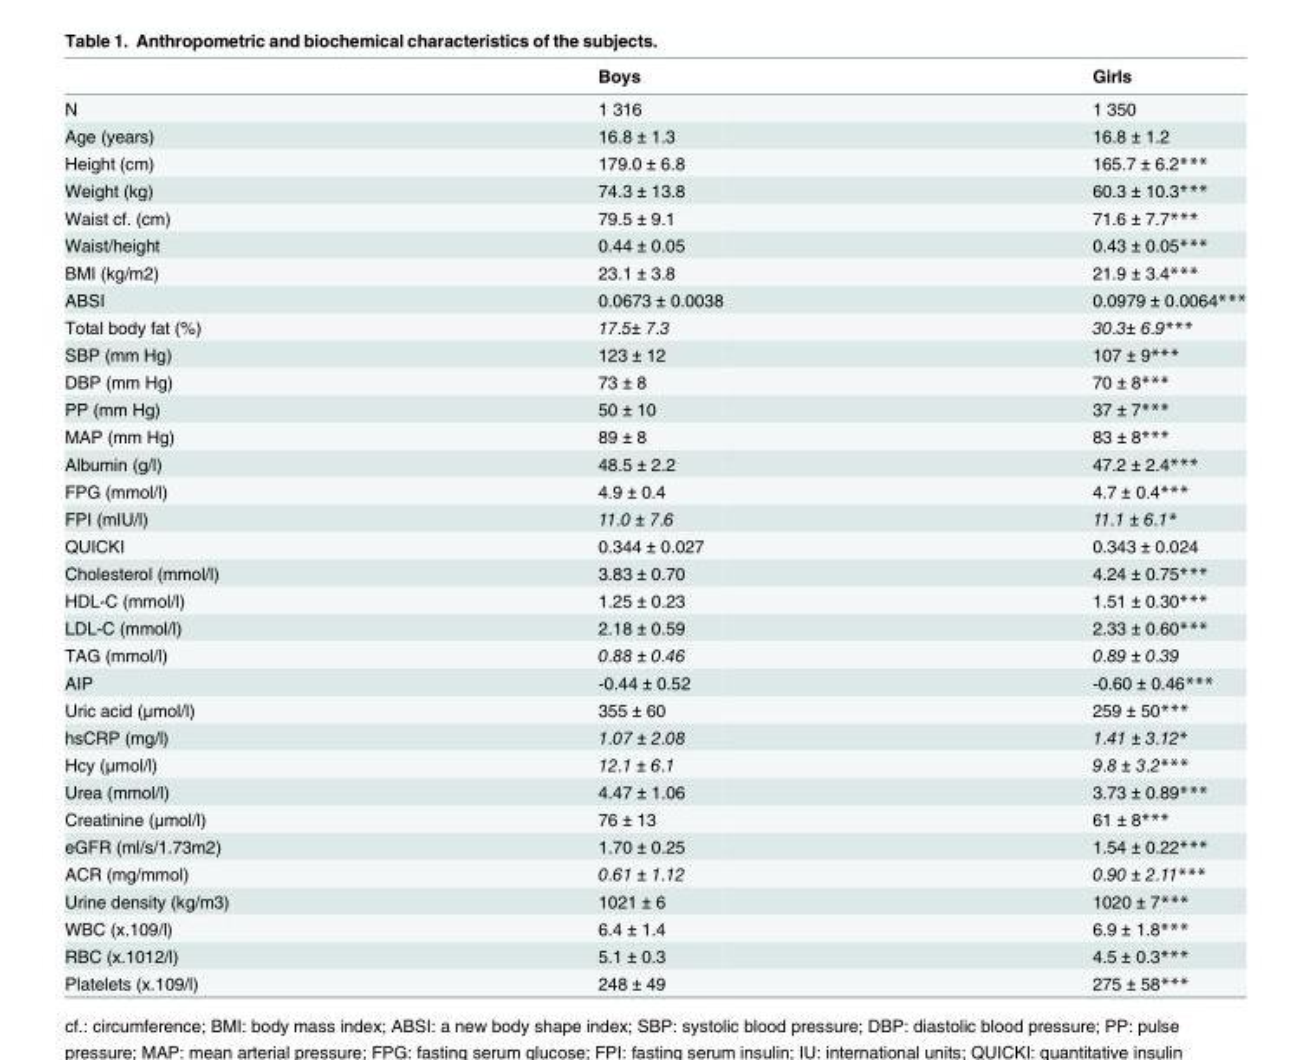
<table><thead><tr><td></td><td>Boys</td><td>Girls</td></tr></thead><tbody><tr><td>N</td><td>1 316</td><td>1 350</td></tr><tr><td>Age (years)</td><td>16.8 ± 1.3</td><td>16.8 ± 1.2</td></tr><tr><td>Height (cm)</td><td>179.0 ± 6.8</td><td>165.7 ± 6.2***</td></tr><tr><td>Weight (kg)</td><td>74.3 ± 13.8</td><td>60.3 ± 10.3***</td></tr><tr><td>Waist cf. (cm)</td><td>79.5 ± 9.1</td><td>71.6 ± 7.7***</td></tr><tr><td>Waist/height</td><td>0.44 ± 0.05</td><td>0.43 ± 0.05***</td></tr><tr><td>BMI (kg/m2)</td><td>23.1 ± 3.8</td><td>21.9 ± 3.4***</td></tr><tr><td>ABSI</td><td>0.0673 ± 0.0038</td><td>0.0979 ± 0.0064***</td></tr><tr><td>Total body fat (%)</td><td>17.5± 7.3</td><td>30.3± 6.9***</td></tr><tr><td>SBP (mm Hg)</td><td>123 ± 12</td><td>107 ± 9***</td></tr><tr><td>DBP (mm Hg)</td><td>73 ± 8</td><td>70 ± 8***</td></tr><tr><td>PP (mm Hg)</td><td>50 ± 10</td><td>37 ± 7***</td></tr><tr><td>MAP (mm Hg)</td><td>89 ± 8</td><td>83 ± 8***</td></tr><tr><td>Albumin (g/l)</td><td>48.5 ± 2.2</td><td>47.2 ± 2.4***</td></tr><tr><td>FPG (mmol/l)</td><td>4.9 ± 0.4</td><td>4.7 ± 0.4***</td></tr><tr><td>FPI (mIU/l)</td><td>11.0 ± 7.6</td><td>11.1 ± 6.1*</td></tr><tr><td>QUICKI</td><td>0.344 ± 0.027</td><td>0.343 ± 0.024</td></tr><tr><td>Cholesterol (mmol/l)</td><td>3.83 ± 0.70</td><td>4.24 ± 0.75***</td></tr><tr><td>HDL-C (mmol/l)</td><td>1.25 ± 0.23</td><td>1.51 ± 0.30***</td></tr><tr><td>LDL-C (mmol/l)</td><td>2.18 ± 0.59</td><td>2.33 ± 0.60***</td></tr><tr><td>TAG (mmol/l)</td><td>0.88 ± 0.46</td><td>0.89 ± 0.39</td></tr><tr><td>AIP</td><td>-0.44 ± 0.52</td><td>-0.60 ± 0.46***</td></tr><tr><td>Uric acid (μmol/l)</td><td>355 ± 60</td><td>259 ± 50***</td></tr><tr><td>hsCRP (mg/l)</td><td>1.07 ± 2.08</td><td>1.41 ± 3.12*</td></tr><tr><td>Hcy (μmol/l)</td><td>12.1 ± 6.1</td><td>9.8 ± 3.2***</td></tr><tr><td>Urea (mmol/l)</td><td>4.47 ± 1.06</td><td>3.73 ± 0.89***</td></tr><tr><td>Creatinine (μmol/l)</td><td>76 ± 13</td><td>61 ± 8***</td></tr><tr><td>eGFR (ml/s/1.73m2)</td><td>1.70 ± 0.25</td><td>1.54 ± 0.22***</td></tr><tr><td>ACR (mg/mmol)</td><td>0.61 ± 1.12</td><td>0.90 ± 2.11***</td></tr><tr><td>Urine density (kg/m3)</td><td>1021 ± 6</td><td>1020 ± 7***</td></tr><tr><td>WBC (x.109/l)</td><td>6.4 ± 1.4</td><td>6.9 ± 1.8***</td></tr><tr><td>RBC (x.1012/l)</td><td>5.1 ± 0.3</td><td>4.5 ± 0.3***</td></tr><tr><td>Platelets (x.109/l)</td><td>248 ± 49</td><td>275 ± 58***</td></tr></tbody></table>